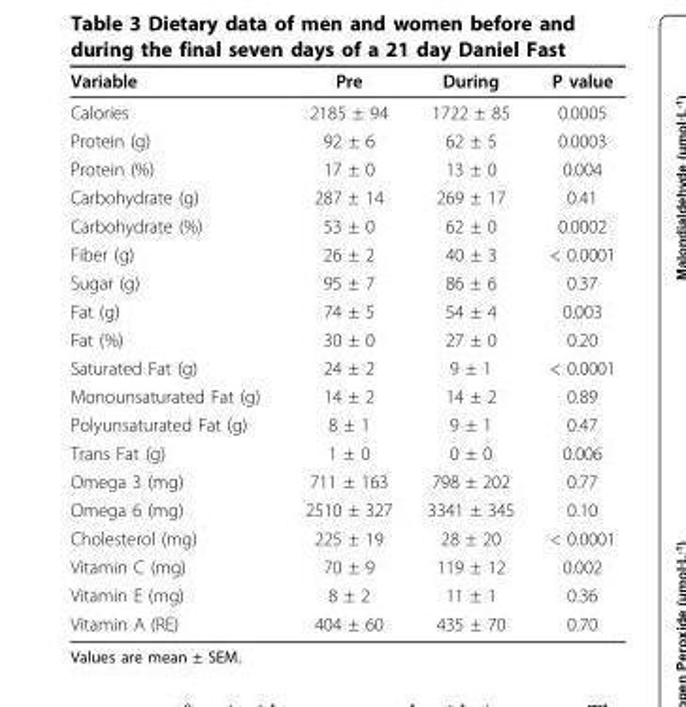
<table><thead><tr><td>Variable</td><td>Pre</td><td>During</td><td>P value</td></tr></thead><tbody><tr><td>Calories</td><td>2185 ± 94</td><td>1722 ± 85</td><td>0.0005</td></tr><tr><td>Protein (g)</td><td>92 ± 6</td><td>62 ± 5</td><td>0.0003</td></tr><tr><td>Protein (%)</td><td>17 ± 0</td><td>13 ± 0</td><td>0.004</td></tr><tr><td>Carbohydrate (g)</td><td>287 ± 14</td><td>269 ± 17</td><td>0.41</td></tr><tr><td>Carbohydrate (%)</td><td>53 ± 0</td><td>62 ± 0</td><td>0.0002</td></tr><tr><td>Fiber (g)</td><td>26 ± 2</td><td>40 ± 3</td><td>&lt; 0.0001</td></tr><tr><td>Sugar (g)</td><td>95 ± 7</td><td>86 ± 6</td><td>0.37</td></tr><tr><td>Fat (g)</td><td>74 ± 5</td><td>54 ± 4</td><td>0.003</td></tr><tr><td>Fat (%)</td><td>30 ± 0</td><td>27 ± 0</td><td>0.20</td></tr><tr><td>Saturated Fat (g)</td><td>24 ± 2</td><td>9 ± 1</td><td>&lt; 0.0001</td></tr><tr><td>Monounsaturated Fat (g)</td><td>14 ± 2</td><td>14 ± 2</td><td>0.89</td></tr><tr><td>Polyunsaturated Fat (g)</td><td>8 ± 1</td><td>9 ± 1</td><td>0.47</td></tr><tr><td>Trans Fat (g)</td><td>1 ± 0</td><td>0 ± 0</td><td>0.006</td></tr><tr><td>Omega 3 (mg)</td><td>711 ± 163</td><td>798 ± 202</td><td>0.77</td></tr><tr><td>Omega 6 (mg)</td><td>2510 ± 327</td><td>3341 ± 345</td><td>0.10</td></tr><tr><td>Cholesterol (mg)</td><td>225 ± 19</td><td>28 ± 20</td><td>&lt; 0.0001</td></tr><tr><td>Vitamin C (mg)</td><td>70 ± 9</td><td>119 ± 12</td><td>0.002</td></tr><tr><td>Vitamin E (mg)</td><td>8 ± 2</td><td>11 ± 1</td><td>0.36</td></tr><tr><td>Vitamin A (RE)</td><td>404 ± 60</td><td>435 ± 70</td><td>0.70</td></tr></tbody></table>